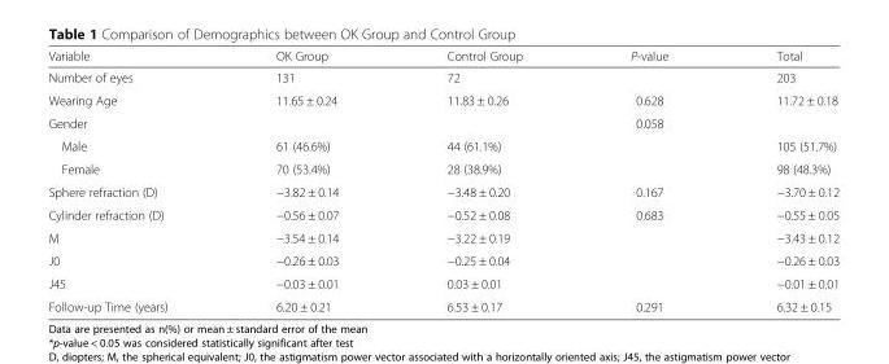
<table><thead><tr><td>Variable</td><td>OK Group</td><td>Control Group</td><td>P-value</td><td>Total</td></tr></thead><tbody><tr><td>Number of eyes</td><td>131</td><td>72</td><td></td><td>203</td></tr><tr><td>Wearing Age</td><td>11.65 ± 0.24</td><td>11.83 ± 0.26</td><td>0.628</td><td>11.72 ± 0.18</td></tr><tr><td>Gender</td><td></td><td></td><td>0.058</td><td></td></tr><tr><td>Male</td><td>61 (46.6%)</td><td>44 (61.1%)</td><td></td><td>105 (51.7%)</td></tr><tr><td>Female</td><td>70 (53.4%)</td><td>28 (38.9%)</td><td></td><td>98 (48.3%)</td></tr><tr><td>Sphere refraction (D)</td><td>−3.82 ± 0.14</td><td>−3.48 ± 0.20</td><td>0.167</td><td>−3.70 ± 0.12</td></tr><tr><td>Cylinder refraction (D)</td><td>−0.56 ± 0.07</td><td>−0.52 ± 0.08</td><td>0.683</td><td>−0.55 ± 0.05</td></tr><tr><td>M</td><td>−3.54 ± 0.14</td><td>−3.22 ± 0.19</td><td></td><td>−3.43 ± 0.12</td></tr><tr><td>J0</td><td>−0.26 ± 0.03</td><td>−0.25 ± 0.04</td><td></td><td>−0.26 ± 0.03</td></tr><tr><td>J45</td><td>−0.03 ± 0.01</td><td>0.03 ± 0.01</td><td></td><td>−0.01 ± 0.01</td></tr><tr><td>Follow-up Time (years)</td><td>6.20 ± 0.21</td><td>6.53 ± 0.17</td><td>0.291</td><td>6.32 ± 0.15</td></tr></tbody></table>